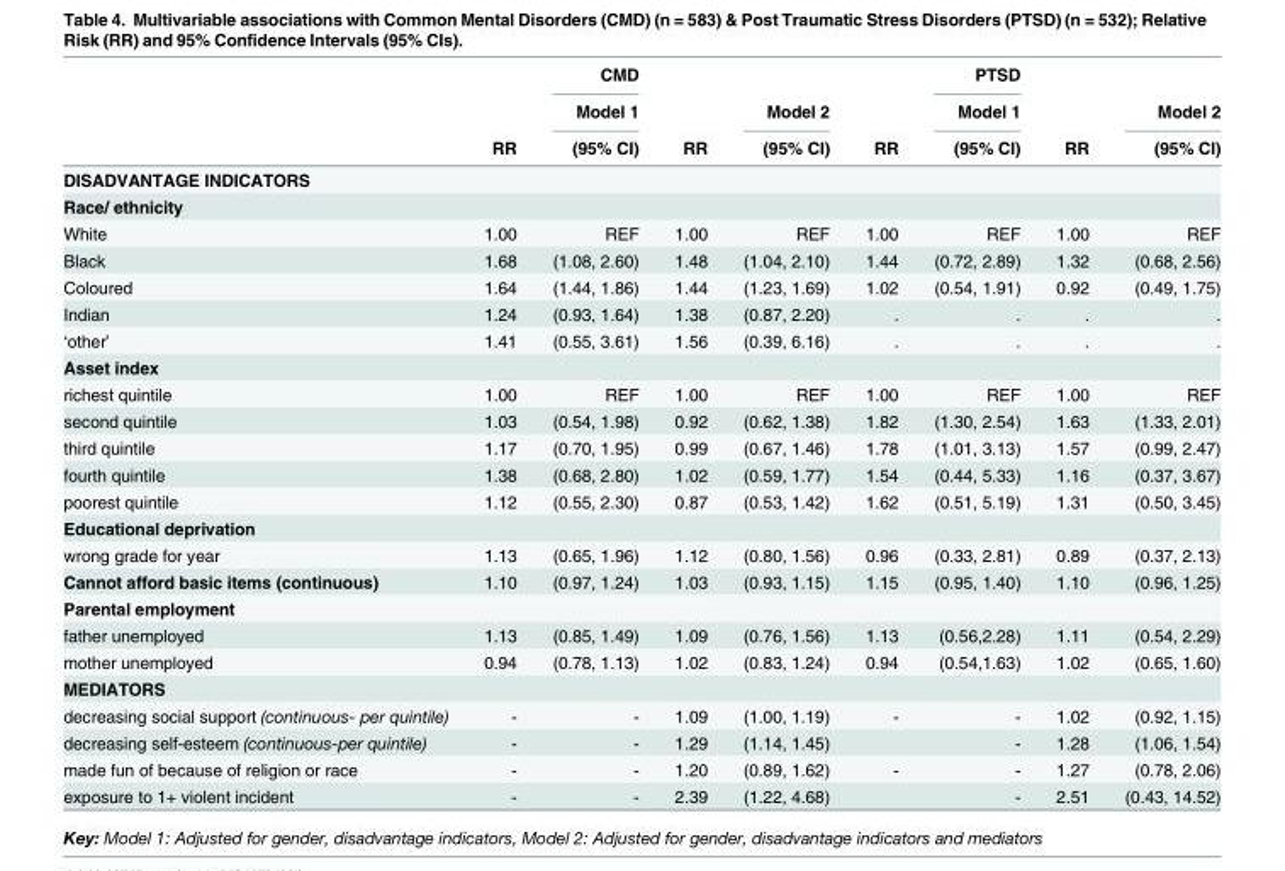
<table><thead><tr><td rowspan="3"></td><td rowspan="3">RR</td><td rowspan="3">CMD Model 1 (95% CI)</td><td rowspan="3">RR</td><td rowspan="3">Model 2 (95% CI)</td><td rowspan="3">RR</td><td rowspan="3">PTSD Model 1 (95% CI)</td><td rowspan="3">RR</td><td rowspan="3">Model 2 (95% CI)</td></tr><tr></tr><tr></tr></thead><tbody><tr><td colspan="9">DISADVANTAGE INDICATORS</td></tr><tr><td colspan="9">Race/ ethnicity</td></tr><tr><td>White</td><td>1.00</td><td>REF</td><td>1.00</td><td>REF</td><td>1.00</td><td>REF</td><td>1.00</td><td>REF</td></tr><tr><td>Black</td><td>1.68</td><td>(1.08, 2.60)</td><td>1.48</td><td>(1.04, 2.10)</td><td>1.44</td><td>(0.72, 2.89)</td><td>1.32</td><td>(0.68, 2.56)</td></tr><tr><td>Coloured</td><td>1.64</td><td>(1.44, 1.86)</td><td>1.44</td><td>(1.23, 1.69)</td><td>1.02</td><td>(0.54, 1.91)</td><td>0.92</td><td>(0.49, 1.75)</td></tr><tr><td>Indian</td><td>1.24</td><td>(0.93, 1.64)</td><td>1.38</td><td>(0.87, 2.20)</td><td>.</td><td>.</td><td>.</td><td>.</td></tr><tr><td>‘other’</td><td>1.41</td><td>(0.55, 3.61)</td><td>1.56</td><td>(0.39, 6.16)</td><td>.</td><td>.</td><td>.</td><td>.</td></tr><tr><td colspan="9">Asset index</td></tr><tr><td>richest quintile</td><td>1.00</td><td>REF</td><td>1.00</td><td>REF</td><td>1.00</td><td>REF</td><td>1.00</td><td>REF</td></tr><tr><td>second quintile</td><td>1.03</td><td>(0.54, 1.98)</td><td>0.92</td><td>(0.62, 1.38)</td><td>1.82</td><td>(1.30, 2.54)</td><td>1.63</td><td>(1.33, 2.01)</td></tr><tr><td>third quintile</td><td>1.17</td><td>(0.70, 1.95)</td><td>0.99</td><td>(0.67, 1.46)</td><td>1.78</td><td>(1.01, 3.13)</td><td>1.57</td><td>(0.99, 2.47)</td></tr><tr><td>fourth quintile</td><td>1.38</td><td>(0.68, 2.80)</td><td>1.02</td><td>(0.59, 1.77)</td><td>1.54</td><td>(0.44, 5.33)</td><td>1.16</td><td>(0.37, 3.67)</td></tr><tr><td>poorest quintile</td><td>1.12</td><td>(0.55, 2.30)</td><td>0.87</td><td>(0.53, 1.42)</td><td>1.62</td><td>(0.51, 5.19)</td><td>1.31</td><td>(0.50, 3.45)</td></tr><tr><td colspan="9">Educational deprivation</td></tr><tr><td>wrong grade for year</td><td>1.13</td><td>(0.65, 1.96)</td><td>1.12</td><td>(0.80, 1.56)</td><td>0.96</td><td>(0.33, 2.81)</td><td>0.89</td><td>(0.37, 2.13)</td></tr><tr><td>Cannot afford basic items (continuous)</td><td>1.10</td><td>(0.97, 1.24)</td><td>1.03</td><td>(0.93, 1.15)</td><td>1.15</td><td>(0.95, 1.40)</td><td>1.10</td><td>(0.96, 1.25)</td></tr><tr><td colspan="9">Parental employment</td></tr><tr><td>father unemployed</td><td>1.13</td><td>(0.85, 1.49)</td><td>1.09</td><td>(0.76, 1.56)</td><td>1.13</td><td>(0.56,2.28)</td><td>1.11</td><td>(0.54, 2.29)</td></tr><tr><td>mother unemployed</td><td>0.94</td><td>(0.78, 1.13)</td><td>1.02</td><td>(0.83, 1.24)</td><td>0.94</td><td>(0.54,1.63)</td><td>1.02</td><td>(0.65, 1.60)</td></tr><tr><td colspan="9">MEDIATORS</td></tr><tr><td>decreasing social support (continuous- per quintile)</td><td>-</td><td>-</td><td>1.09</td><td>(1.00, 1.19)</td><td>-</td><td>-</td><td>1.02</td><td>(0.92, 1.15)</td></tr><tr><td>decreasing self-esteem (continuous-per quintile)</td><td>-</td><td>-</td><td>1.29</td><td>(1.14, 1.45)</td><td></td><td>-</td><td>1.28</td><td>(1.06, 1.54)</td></tr><tr><td>made fun of because of religion or race</td><td>-</td><td>-</td><td>1.20</td><td>(0.89, 1.62)</td><td>-</td><td>-</td><td>1.27</td><td>(0.78, 2.06)</td></tr><tr><td>exposure to 1+ violent incident</td><td>-</td><td>-</td><td>2.39</td><td>(1.22, 4.68)</td><td></td><td>-</td><td>2.51</td><td>(0.43, 14.52)</td></tr></tbody></table>